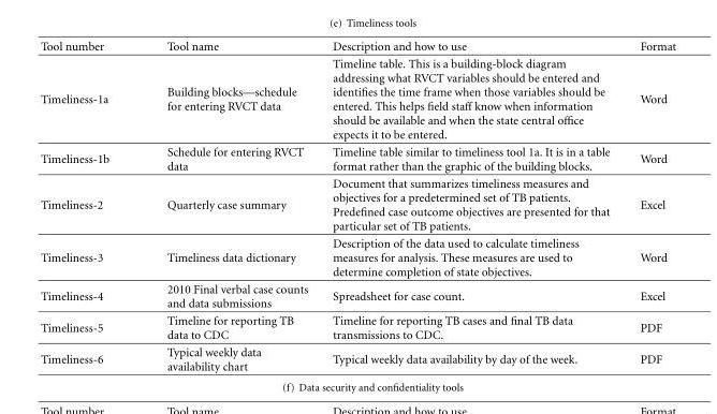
<table><thead><tr><td>Tool number</td><td>Tool name</td><td>Description and how to use</td><td>Format</td></tr></thead><tbody><tr><td>Timeliness-1a</td><td>Building blocks—schedule for entering RVCT data</td><td>Timeline table. This is a building-block diagram addressing what RVCT variables should be entered and identifies the time frame when those variables should be entered. This helps field staff know when information should be available and when the state central office expects it to be entered.</td><td>Word</td></tr><tr><td>Timeliness-1b</td><td>Schedule for entering RVCT data</td><td>Timeline table similar to timeliness tool 1a. It is in a table format rather than the graphic of the building blocks.</td><td>Word</td></tr><tr><td>Timeliness-2</td><td>Quarterly case summary</td><td>Document that summarizes timeliness measures and objectives for a predetermined set of TB patients. Predefined case outcome objectives are presented for that particular set of TB patients.</td><td>Excel</td></tr><tr><td>Timeliness-3</td><td>Timeliness data dictionary</td><td>Description of the data used to calculate timeliness measures for analysis. These measures are used to determine completion of state objectives.</td><td>Word</td></tr><tr><td>Timeliness-4</td><td>2010 Final verbal case counts and data submissions</td><td>Spreadsheet for case count.</td><td>Excel</td></tr><tr><td>Timeliness-5</td><td>Timeline for reporting TB data to CDC</td><td>Timeline for reporting TB cases and final TB data transmissions to CDC.</td><td>PDF</td></tr><tr><td>Timeliness-6</td><td>Typical weekly data availability chart</td><td>Typical weekly data availability by day of the week.</td><td>PDF</td></tr></tbody></table>